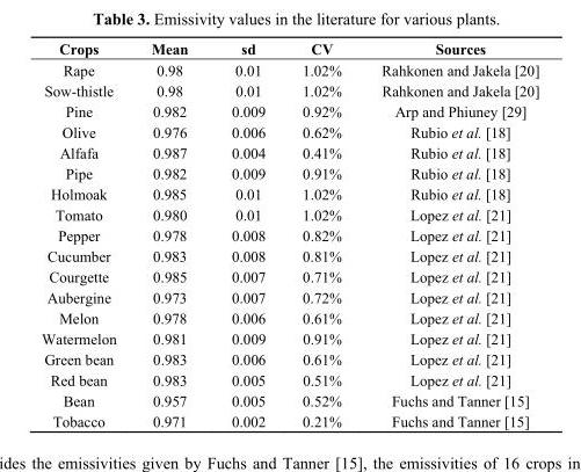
<table><thead><tr><td>Crops</td><td>Mean</td><td>sd</td><td>CV</td><td>Sources</td></tr></thead><tbody><tr><td>Rape</td><td>0.98</td><td>0.01</td><td>1.02%</td><td>Rahkonen and Jakela [20]</td></tr><tr><td>Sow-thistle</td><td>0.98</td><td>0.01</td><td>1.02%</td><td>Rahkonen and Jakela [20]</td></tr><tr><td>Pine</td><td>0.982</td><td>0.009</td><td>0.92%</td><td>Arp and Phiuney [29]</td></tr><tr><td>Olive</td><td>0.976</td><td>0.006</td><td>0.62%</td><td>Rubio et al. [18]</td></tr><tr><td>Alfafa</td><td>0.987</td><td>0.004</td><td>0.41%</td><td>Rubio et al. [18]</td></tr><tr><td>Pipe</td><td>0.982</td><td>0.009</td><td>0.91%</td><td>Rubio et al. [18]</td></tr><tr><td>Holmoak</td><td>0.985</td><td>0.01</td><td>1.02%</td><td>Rubio et al. [18]</td></tr><tr><td>Tomato</td><td>0.980</td><td>0.01</td><td>1.02%</td><td>Lopez et al. [21]</td></tr><tr><td>Pepper</td><td>0.978</td><td>0.008</td><td>0.82%</td><td>Lopez et al. [21]</td></tr><tr><td>Cucumber</td><td>0.983</td><td>0.008</td><td>0.81%</td><td>Lopez et al. [21]</td></tr><tr><td>Courgette</td><td>0.985</td><td>0.007</td><td>0.71%</td><td>Lopez et al. [21]</td></tr><tr><td>Aubergine</td><td>0.973</td><td>0.007</td><td>0.72%</td><td>Lopez et al. [21]</td></tr><tr><td>Melon</td><td>0.978</td><td>0.006</td><td>0.61%</td><td>Lopez et al. [21]</td></tr><tr><td>Watermelon</td><td>0.981</td><td>0.009</td><td>0.91%</td><td>Lopez et al. [21]</td></tr><tr><td>Green bean</td><td>0.983</td><td>0.006</td><td>0.61%</td><td>Lopez et al. [21]</td></tr><tr><td>Red bean</td><td>0.983</td><td>0.005</td><td>0.51%</td><td>Lopez et al. [21]</td></tr><tr><td>Bean</td><td>0.957</td><td>0.005</td><td>0.52%</td><td>Fuchs and Tanner [15]</td></tr><tr><td>Tobacco</td><td>0.971</td><td>0.002</td><td>0.21%</td><td>Fuchs and Tanner [15]</td></tr></tbody></table>